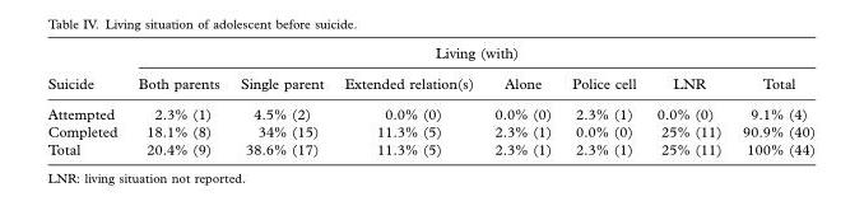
<table><thead><tr><td rowspan="2">Suicide</td><td colspan="7">Living (with)</td></tr><tr><td>Both parents</td><td>Single parent</td><td>Extended relation(s)</td><td>Alone</td><td>Police cell</td><td>LNR</td><td>Total</td></tr></thead><tbody><tr><td>Attempted</td><td>2.3% (1)</td><td>4.5% (2)</td><td>0.0% (0)</td><td>0.0% (0)</td><td>2.3% (1)</td><td>0.0% (0)</td><td>9.1% (4)</td></tr><tr><td>Completed</td><td>18.1% (8)</td><td>34% (15)</td><td>11.3% (5)</td><td>2.3% (1)</td><td>0.0% (0)</td><td>25% (11)</td><td>90.9% (40)</td></tr><tr><td>Total</td><td>20.4% (9)</td><td>38.6% (17)</td><td>11.3% (5)</td><td>2.3% (1)</td><td>2.3% (1)</td><td>25% (11)</td><td>100% (44)</td></tr></tbody></table>